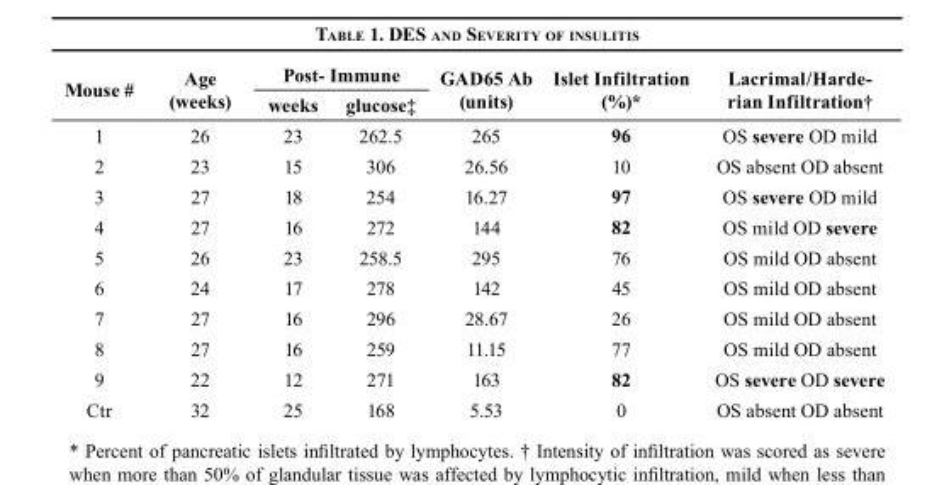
<table><thead><tr><td rowspan="2">Mouse #</td><td rowspan="2">Age (weeks)</td><td colspan="2">Post- Immune</td><td rowspan="2">GAD65 Ab (units)</td><td rowspan="2">Islet Infiltration (%)*</td><td rowspan="2">Lacrimal/Harde- rian Infiltration†</td></tr><tr><td>weeks</td><td>glucose‡</td></tr></thead><tbody><tr><td>1</td><td>26</td><td>23</td><td>262.5</td><td>265</td><td>96</td><td>OS severe OD mild</td></tr><tr><td>2</td><td>23</td><td>15</td><td>306</td><td>26.56</td><td>10</td><td>OS absent OD absent</td></tr><tr><td>3</td><td>27</td><td>18</td><td>254</td><td>16.27</td><td>97</td><td>OS severe OD mild</td></tr><tr><td>4</td><td>27</td><td>16</td><td>272</td><td>144</td><td>82</td><td>OS mild OD severe</td></tr><tr><td>5</td><td>26</td><td>23</td><td>258.5</td><td>295</td><td>76</td><td>OS mild OD absent</td></tr><tr><td>6</td><td>24</td><td>17</td><td>278</td><td>142</td><td>45</td><td>OS mild OD absent</td></tr><tr><td>7</td><td>27</td><td>16</td><td>296</td><td>28.67</td><td>26</td><td>OS mild OD absent</td></tr><tr><td>8</td><td>27</td><td>16</td><td>259</td><td>11.15</td><td>77</td><td>OS mild OD absent</td></tr><tr><td>9</td><td>22</td><td>12</td><td>271</td><td>163</td><td>82</td><td>OS severe OD severe</td></tr><tr><td>Ctr</td><td>32</td><td>25</td><td>168</td><td>5.53</td><td>0</td><td>OS absent OD absent</td></tr></tbody></table>